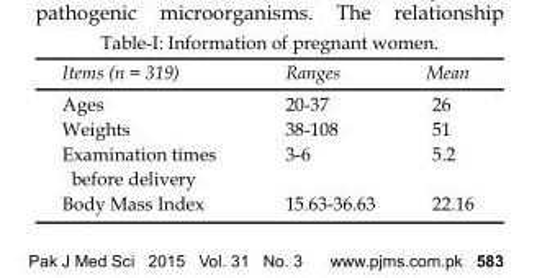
<table><thead><tr><td>Items (n = 319)</td><td>Ranges</td><td>Mean</td></tr></thead><tbody><tr><td>Ages</td><td>20-37</td><td>26</td></tr><tr><td>Weights</td><td>38-108</td><td>51</td></tr><tr><td>Examination times before delivery</td><td>3-6</td><td>5.2</td></tr><tr><td>Body Mass Index</td><td>15.63-36.63</td><td>22.16</td></tr></tbody></table>